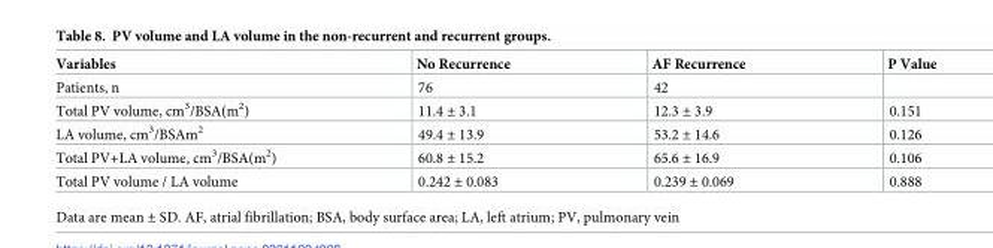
<table><thead><tr><td>Variables</td><td>No Recurrence</td><td>AF Recurrence</td><td>P Value</td></tr></thead><tbody><tr><td>Patients, n</td><td>76</td><td>42</td><td></td></tr><tr><td>Total PV volume, cm<sup>3</sup>/BSA(m<sup>2</sup>)</td><td>11.4 ± 3.1</td><td>12.3 ± 3.9</td><td>0.151</td></tr><tr><td>LA volume, cm<sup>3</sup>/BSAm<sup>2</sup></td><td>49.4 ± 13.9</td><td>53.2 ± 14.6</td><td>0.126</td></tr><tr><td>Total PV+LA volume, cm<sup>3</sup>/BSA(m<sup>2</sup>)</td><td>60.8 ± 15.2</td><td>65.6 ± 16.9</td><td>0.106</td></tr><tr><td>Total PV volume / LA volume</td><td>0.242 ± 0.083</td><td>0.239 ± 0.069</td><td>0.888</td></tr></tbody></table>